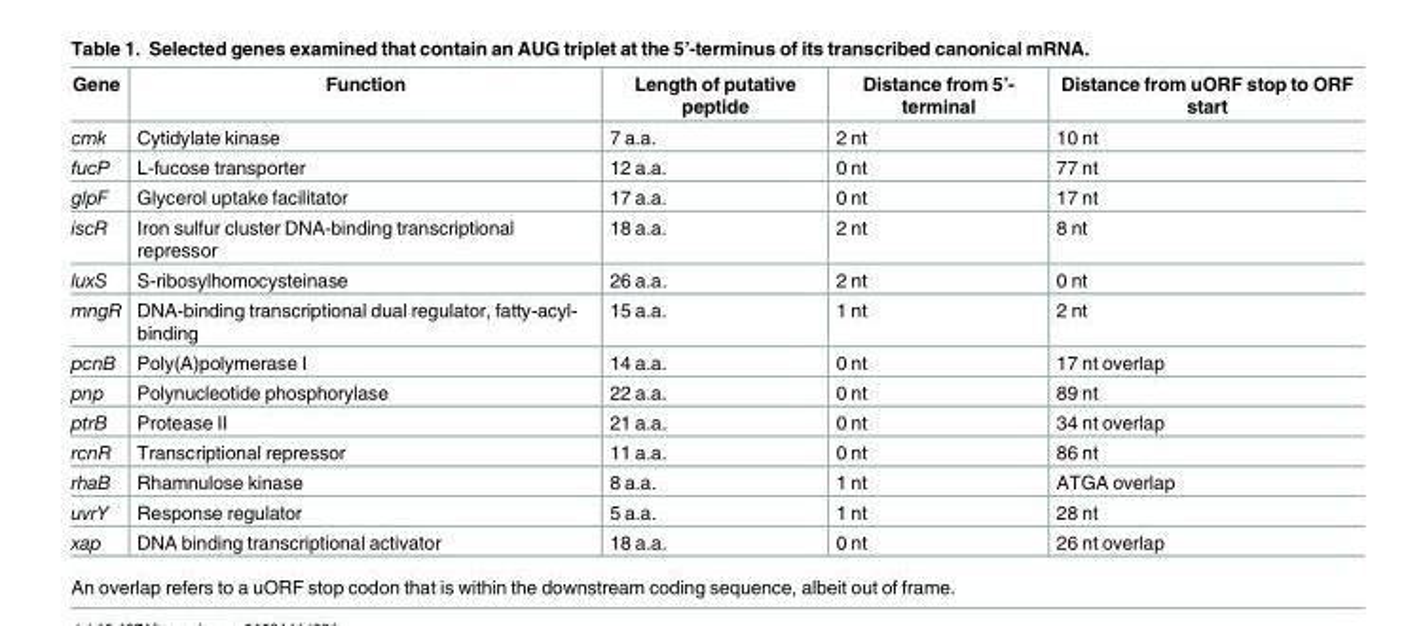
<table><thead><tr><td>Gene</td><td>Function</td><td>Length of putative peptide</td><td>Distance from 5’- terminal</td><td>Distance from uORF stop to ORF start</td></tr></thead><tbody><tr><td>cmk</td><td>Cytidylate kinase</td><td>7 a.a.</td><td>2 nt</td><td>10 nt</td></tr><tr><td>fucP</td><td>L-fucose transporter</td><td>12 a.a.</td><td>0 nt</td><td>77 nt</td></tr><tr><td>glpF</td><td>Glycerol uptake facilitator</td><td>17 a.a.</td><td>0 nt</td><td>17 nt</td></tr><tr><td>iscR</td><td>Iron sulfur cluster DNA-binding transcriptional repressor</td><td>18 a.a.</td><td>2 nt</td><td>8 nt</td></tr><tr><td>luxS</td><td>S-ribosylhomocysteinase</td><td>26 a.a.</td><td>2 nt</td><td>0 nt</td></tr><tr><td>mngR</td><td>DNA-binding transcriptional dual regulator, fatty-acyl- binding</td><td>15 a.a.</td><td>1 nt</td><td>2 nt</td></tr><tr><td>pcnB</td><td>Poly(A)polymerase I</td><td>14 a.a.</td><td>0 nt</td><td>17 nt overlap</td></tr><tr><td>pnp</td><td>Polynucleotide phosphorylase</td><td>22 a.a.</td><td>0 nt</td><td>89 nt</td></tr><tr><td>ptrB</td><td>Protease II</td><td>21 a.a.</td><td>0 nt</td><td>34 nt overlap</td></tr><tr><td>rcnR</td><td>Transcriptional repressor</td><td>11 a.a.</td><td>0 nt</td><td>86 nt</td></tr><tr><td>rhaB</td><td>Rhamnulose kinase</td><td>8 a.a.</td><td>1 nt</td><td>ATGA overlap</td></tr><tr><td>uvrY</td><td>Response regulator</td><td>5 a.a.</td><td>1 nt</td><td>28 nt</td></tr><tr><td>xap</td><td>DNA binding transcriptional activator</td><td>18 a.a.</td><td>0 nt</td><td>26 nt overlap</td></tr></tbody></table>